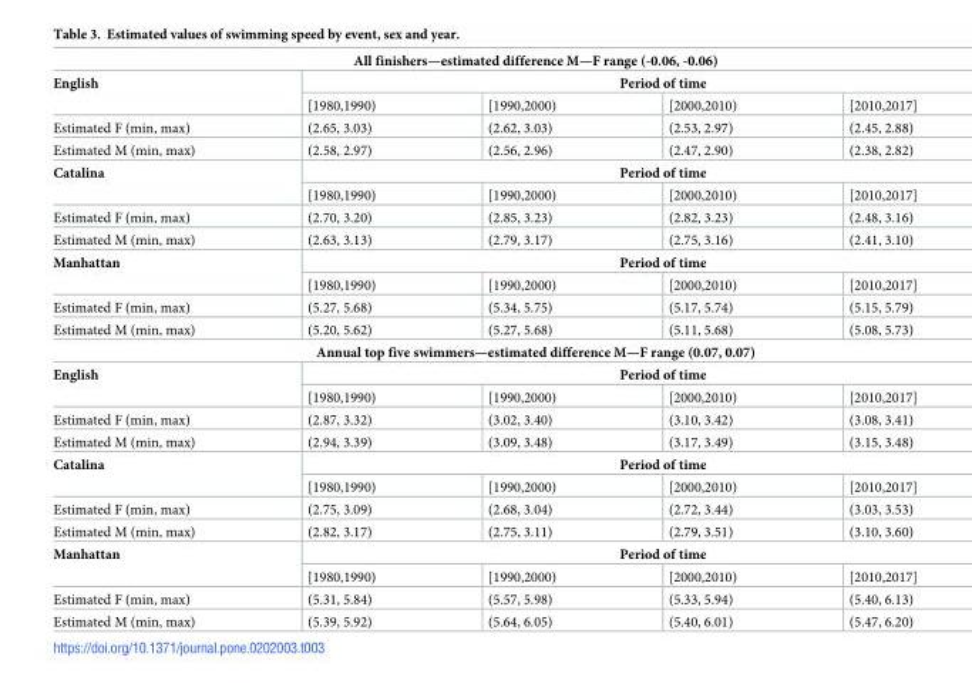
<table><tbody><tr><td colspan="5">All finishers—estimated difference M—F range (-0.06, -0.06)</td></tr><tr><td rowspan="2">English</td><td colspan="4">Period of time</td></tr><tr><td>[1980,1990)</td><td>[1990,2000)</td><td>[2000,2010)</td><td>[2010,2017]</td></tr><tr><td>Estimated F (min, max)</td><td>(2.65, 3.03)</td><td>(2.62, 3.03)</td><td>(2.53, 2.97)</td><td>(2.45, 2.88)</td></tr><tr><td>Estimated M (min, max)</td><td>(2.58, 2.97)</td><td>(2.56, 2.96)</td><td>(2.47, 2.90)</td><td>(2.38, 2.82)</td></tr><tr><td rowspan="2">Catalina</td><td colspan="4">Period of time</td></tr><tr><td>[1980,1990)</td><td>[1990,2000)</td><td>[2000,2010)</td><td>[2010,2017]</td></tr><tr><td>Estimated F (min, max)</td><td>(2.70, 3.20)</td><td>(2.85, 3.23)</td><td>(2.82, 3.23)</td><td>(2.48, 3.16)</td></tr><tr><td>Estimated M (min, max)</td><td>(2.63, 3.13)</td><td>(2.79, 3.17)</td><td>(2.75, 3.16)</td><td>(2.41, 3.10)</td></tr><tr><td rowspan="2">Manhattan</td><td colspan="4">Period of time</td></tr><tr><td>[1980,1990)</td><td>[1990,2000)</td><td>[2000,2010)</td><td>[2010,2017]</td></tr><tr><td>Estimated F (min, max)</td><td>(5.27, 5.68)</td><td>(5.34, 5.75)</td><td>(5.17, 5.74)</td><td>(5.15, 5.79)</td></tr><tr><td>Estimated M (min, max)</td><td>(5.20, 5.62)</td><td>(5.27, 5.68)</td><td>(5.11, 5.68)</td><td>(5.08, 5.73)</td></tr><tr><td colspan="5">Annual top five swimmers—estimated difference M—F range (0.07, 0.07)</td></tr><tr><td rowspan="2">English</td><td colspan="4">Period of time</td></tr><tr><td>[1980,1990)</td><td>[1990,2000)</td><td>[2000,2010)</td><td>[2010,2017]</td></tr><tr><td>Estimated F (min, max)</td><td>(2.87, 3.32)</td><td>(3.02, 3.40)</td><td>(3.10, 3.42)</td><td>(3.08, 3.41)</td></tr><tr><td>Estimated M (min, max)</td><td>(2.94, 3.39)</td><td>(3.09, 3.48)</td><td>(3.17, 3.49)</td><td>(3.15, 3.48)</td></tr><tr><td rowspan="2">Catalina</td><td colspan="4">Period of time</td></tr><tr><td>[1980,1990)</td><td>[1990,2000)</td><td>[2000,2010)</td><td>[2010,2017]</td></tr><tr><td>Estimated F (min, max)</td><td>(2.75, 3.09)</td><td>(2.68, 3.04)</td><td>(2.72, 3.44)</td><td>(3.03, 3.53)</td></tr><tr><td>Estimated M (min, max)</td><td>(2.82, 3.17)</td><td>(2.75, 3.11)</td><td>(2.79, 3.51)</td><td>(3.10, 3.60)</td></tr><tr><td rowspan="2">Manhattan</td><td colspan="4">Period of time</td></tr><tr><td>[1980,1990)</td><td>[1990,2000)</td><td>[2000,2010)</td><td>[2010,2017]</td></tr><tr><td>Estimated F (min, max)</td><td>(5.31, 5.84)</td><td>(5.57, 5.98)</td><td>(5.33, 5.94)</td><td>(5.40, 6.13)</td></tr><tr><td>Estimated M (min, max)</td><td>(5.39, 5.92)</td><td>(5.64, 6.05)</td><td>(5.40, 6.01)</td><td>(5.47, 6.20)</td></tr></tbody></table>